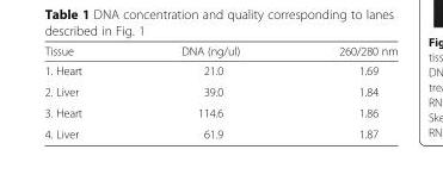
<table><thead><tr><td>Tissue</td><td>DNA (ng/ul)</td><td>260/280 nm</td></tr></thead><tbody><tr><td>1. Heart</td><td>21.0</td><td>1.69</td></tr><tr><td>2. Liver</td><td>39.0</td><td>1.84</td></tr><tr><td>3. Heart</td><td>114.6</td><td>1.86</td></tr><tr><td>4. Liver</td><td>61.9</td><td>1.87</td></tr></tbody></table>